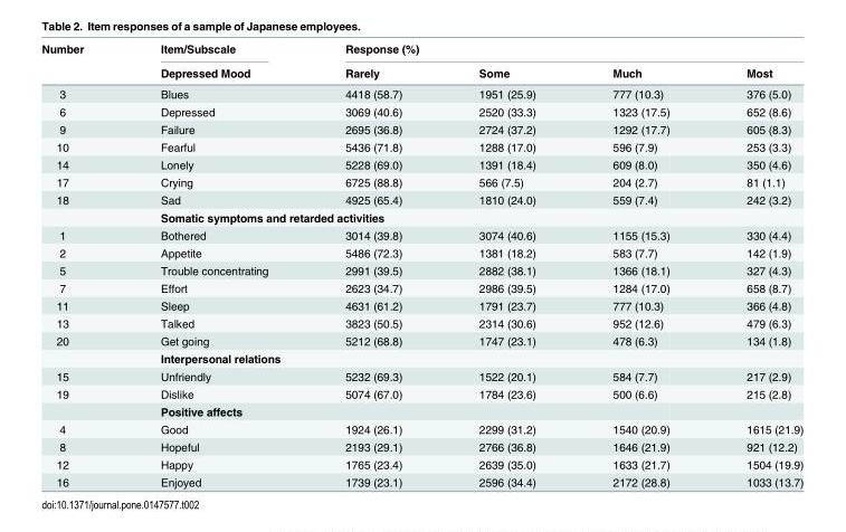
<table><thead><tr><td rowspan="2">Number</td><td rowspan="2">Item/Subscale Depressed Mood</td><td colspan="4">Response (%)</td></tr><tr><td>Rarely</td><td>Some</td><td>Much</td><td>Most</td></tr></thead><tbody><tr><td>3</td><td>Blues</td><td>4418 (58.7)</td><td>1951 (25.9)</td><td>777 (10.3)</td><td>376 (5.0)</td></tr><tr><td>6</td><td>Depressed</td><td>3069 (40.6)</td><td>2520 (33.3)</td><td>1323 (17.5)</td><td>652 (8.6)</td></tr><tr><td>9</td><td>Failure</td><td>2695 (36.8)</td><td>2724 (37.2)</td><td>1292 (17.7)</td><td>605 (8.3)</td></tr><tr><td>10</td><td>Fearful</td><td>5436 (71.8)</td><td>1288 (17.0)</td><td>596 (7.9)</td><td>253 (3.3)</td></tr><tr><td>14</td><td>Lonely</td><td>5228 (69.0)</td><td>1391 (18.4)</td><td>609 (8.0)</td><td>350 (4.6)</td></tr><tr><td>17</td><td>Crying</td><td>6725 (88.8)</td><td>566 (7.5)</td><td>204 (2.7)</td><td>81 (1.1)</td></tr><tr><td rowspan="2">18</td><td>Sad</td><td>4925 (65.4)</td><td>1810 (24.0)</td><td>559 (7.4)</td><td>242 (3.2)</td></tr><tr><td colspan="5">Somatic symptoms and retarded activities</td></tr><tr><td>1</td><td>Bothered</td><td>3014 (39.8)</td><td>3074 (40.6)</td><td>1155 (15.3)</td><td>330 (4.4)</td></tr><tr><td>2</td><td>Appetite</td><td>5486 (72.3)</td><td>1381 (18.2)</td><td>583 (7.7)</td><td>142 (1.9)</td></tr><tr><td>5</td><td>Trouble concentrating</td><td>2991 (39.5)</td><td>2882 (38.1)</td><td>1366 (18.1)</td><td>327 (4.3)</td></tr><tr><td>7</td><td>Effort</td><td>2623 (34.7)</td><td>2986 (39.5)</td><td>1284 (17.0)</td><td>658 (8.7)</td></tr><tr><td>11</td><td>Sleep</td><td>4631 (61.2)</td><td>1791 (23.7)</td><td>777 (10.3)</td><td>366 (4.8)</td></tr><tr><td>13</td><td>Talked</td><td>3823 (50.5)</td><td>2314 (30.6)</td><td>952 (12.6)</td><td>479 (6.3)</td></tr><tr><td rowspan="2">20</td><td>Get going</td><td>5212 (68.8)</td><td>1747 (23.1)</td><td>478 (6.3)</td><td>134 (1.8)</td></tr><tr><td colspan="3">Interpersonal relations</td><td></td><td></td></tr><tr><td>15</td><td>Unfriendly</td><td>5232 (69.3)</td><td>1522 (20.1)</td><td>584 (7.7)</td><td>217 (2.9)</td></tr><tr><td rowspan="2">19</td><td>Dislike</td><td>5074 (67.0)</td><td>1784 (23.6)</td><td>500 (6.6)</td><td>215 (2.8)</td></tr><tr><td colspan="2">Positive affects</td><td></td><td></td><td></td></tr><tr><td>4</td><td>Good</td><td>1924 (26.1)</td><td>2299 (31.2)</td><td>1540 (20.9)</td><td>1615 (21.9)</td></tr><tr><td>8</td><td>Hopeful</td><td>2193 (29.1)</td><td>2766 (36.8)</td><td>1646 (21.9)</td><td>921 (12.2)</td></tr><tr><td>12</td><td>Happy</td><td>1765 (23.4)</td><td>2639 (35.0)</td><td>1633 (21.7)</td><td>1504 (19.9)</td></tr><tr><td>16</td><td>Enjoyed</td><td>1739 (23.1)</td><td>2596 (34.4)</td><td>2172 (28.8)</td><td>1033 (13.7)</td></tr></tbody></table>